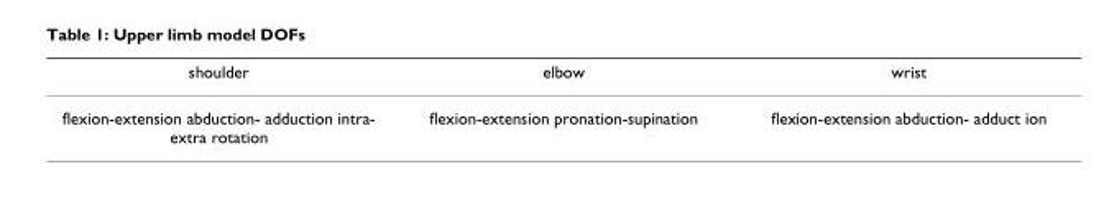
<table><thead><tr><td>shoulder</td><td>elbow</td><td>wrist</td></tr></thead><tbody><tr><td>flexion-extension abduction- adduction intra- extra rotation</td><td>flexion-extension pronation-supination</td><td>flexion-extension abduction- adduct ion</td></tr></tbody></table>